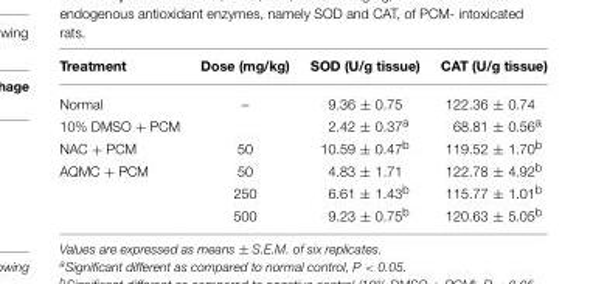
<table><thead><tr><td>Treatment</td><td>Dose (mg/kg)</td><td>SOD (U/g tissue)</td><td>CAT (U/g tissue)</td></tr></thead><tbody><tr><td>Normal</td><td>–</td><td>9.36 ± 0.75</td><td>122.36 ± 0.74</td></tr><tr><td>10% DMSO + PCM</td><td></td><td>2.42 ± 0.37<sup>a</sup></td><td>68.81 ± 0.56<sup>a</sup></td></tr><tr><td>NAC + PCM</td><td>50</td><td>10.59 ± 0.47<sup>b</sup></td><td>119.52 ± 1.70<sup>b</sup></td></tr><tr><td rowspan="3">AQMC + PCM</td><td>50</td><td>4.83 ± 1.71</td><td>122.78 ± 4.92<sup>b</sup></td></tr><tr><td>250</td><td>6.61 ± 1.43<sup>b</sup></td><td>115.77 ± 1.01<sup>b</sup></td></tr><tr><td>500</td><td>9.23 ± 0.75<sup>b</sup></td><td>120.63 ± 5.05<sup>b</sup></td></tr></tbody></table>